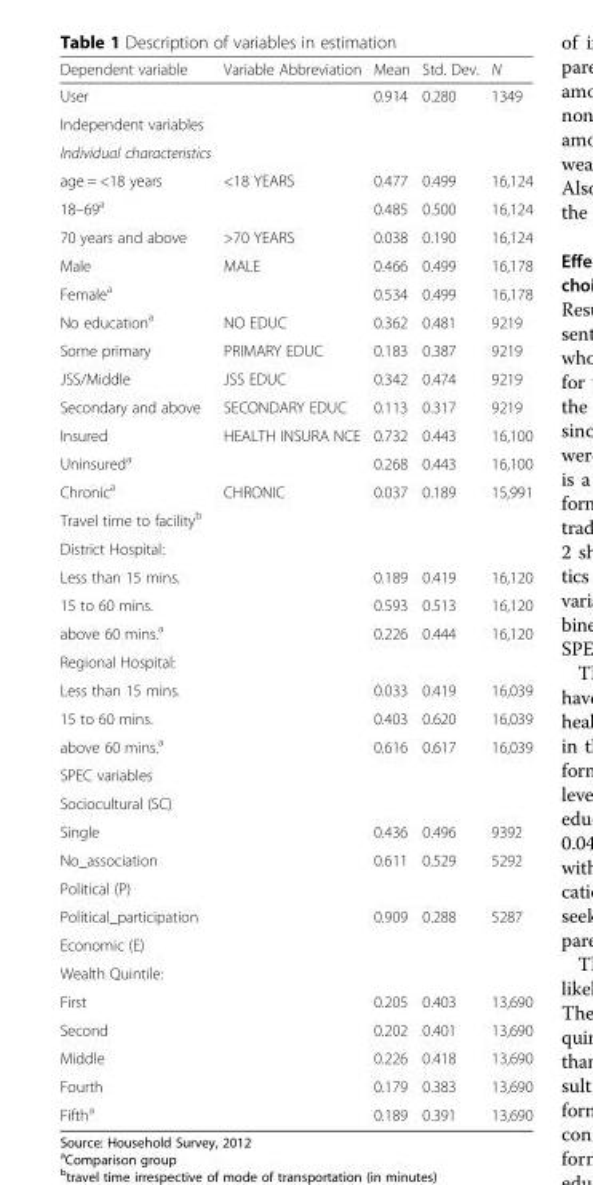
<table><thead><tr><td>Dependent variable</td><td>Variable Abbreviation</td><td>Mean</td><td>Std. Dev.</td><td>N</td></tr></thead><tbody><tr><td>User</td><td></td><td>0.914</td><td>0.280</td><td>1349</td></tr><tr><td colspan="5">Independent variables</td></tr><tr><td colspan="5">Individual characteristics</td></tr><tr><td>age = &lt;18 years</td><td>&lt;18 YEARS</td><td>0.477</td><td>0.499</td><td>16,124</td></tr><tr><td>18–69<sup>a</sup></td><td></td><td>0.485</td><td>0.500</td><td>16,124</td></tr><tr><td>70 years and above</td><td>&gt;70 YEARS</td><td>0.038</td><td>0.190</td><td>16,124</td></tr><tr><td>Male</td><td>MALE</td><td>0.466</td><td>0.499</td><td>16,178</td></tr><tr><td>Female<sup>a</sup></td><td></td><td>0.534</td><td>0.499</td><td>16,178</td></tr><tr><td>No education<sup>a</sup></td><td>NO EDUC</td><td>0.362</td><td>0.481</td><td>9219</td></tr><tr><td>Some primary</td><td>PRIMARY EDUC</td><td>0.183</td><td>0.387</td><td>9219</td></tr><tr><td>JSS/Middle</td><td>JSS EDUC</td><td>0.342</td><td>0.474</td><td>9219</td></tr><tr><td>Secondary and above</td><td>SECONDARY EDUC</td><td>0.113</td><td>0.317</td><td>9219</td></tr><tr><td>Insured</td><td>HEALTH INSURA NCE</td><td>0.732</td><td>0.443</td><td>16,100</td></tr><tr><td>Uninsured<sup>a</sup></td><td></td><td>0.268</td><td>0.443</td><td>16,100</td></tr><tr><td>Chronic<sup>a</sup></td><td>CHRONIC</td><td>0.037</td><td>0.189</td><td>15,991</td></tr><tr><td colspan="5">Travel time to facility<sup>b</sup></td></tr><tr><td colspan="5">District Hospital:</td></tr><tr><td>Less than 15 mins.</td><td></td><td>0.189</td><td>0.419</td><td>16,120</td></tr><tr><td>15 to 60 mins.</td><td></td><td>0.593</td><td>0.513</td><td>16,120</td></tr><tr><td>above 60 mins.<sup>a</sup></td><td></td><td>0.226</td><td>0.444</td><td>16,120</td></tr><tr><td colspan="5">Regional Hospital:</td></tr><tr><td>Less than 15 mins.</td><td></td><td>0.033</td><td>0.419</td><td>16,039</td></tr><tr><td>15 to 60 mins.</td><td></td><td>0.403</td><td>0.620</td><td>16,039</td></tr><tr><td>above 60 mins.<sup>a</sup></td><td></td><td>0.616</td><td>0.617</td><td>16,039</td></tr><tr><td colspan="5">SPEC variables</td></tr><tr><td colspan="5">Sociocultural (SC)</td></tr><tr><td>Single</td><td></td><td>0.436</td><td>0.496</td><td>9392</td></tr><tr><td>No_association</td><td></td><td>0.611</td><td>0.529</td><td>5292</td></tr><tr><td colspan="5">Political (P)</td></tr><tr><td>Political_participation</td><td></td><td>0.909</td><td>0.288</td><td>5287</td></tr><tr><td colspan="5">Economic (E)</td></tr><tr><td colspan="5">Wealth Quintile:</td></tr><tr><td>First</td><td></td><td>0.205</td><td>0.403</td><td>13,690</td></tr><tr><td>Second</td><td></td><td>0.202</td><td>0.401</td><td>13,690</td></tr><tr><td>Middle</td><td></td><td>0.226</td><td>0.418</td><td>13,690</td></tr><tr><td>Fourth</td><td></td><td>0.179</td><td>0.383</td><td>13,690</td></tr><tr><td>Fifth<sup>a</sup></td><td></td><td>0.189</td><td>0.391</td><td>13,690</td></tr></tbody></table>